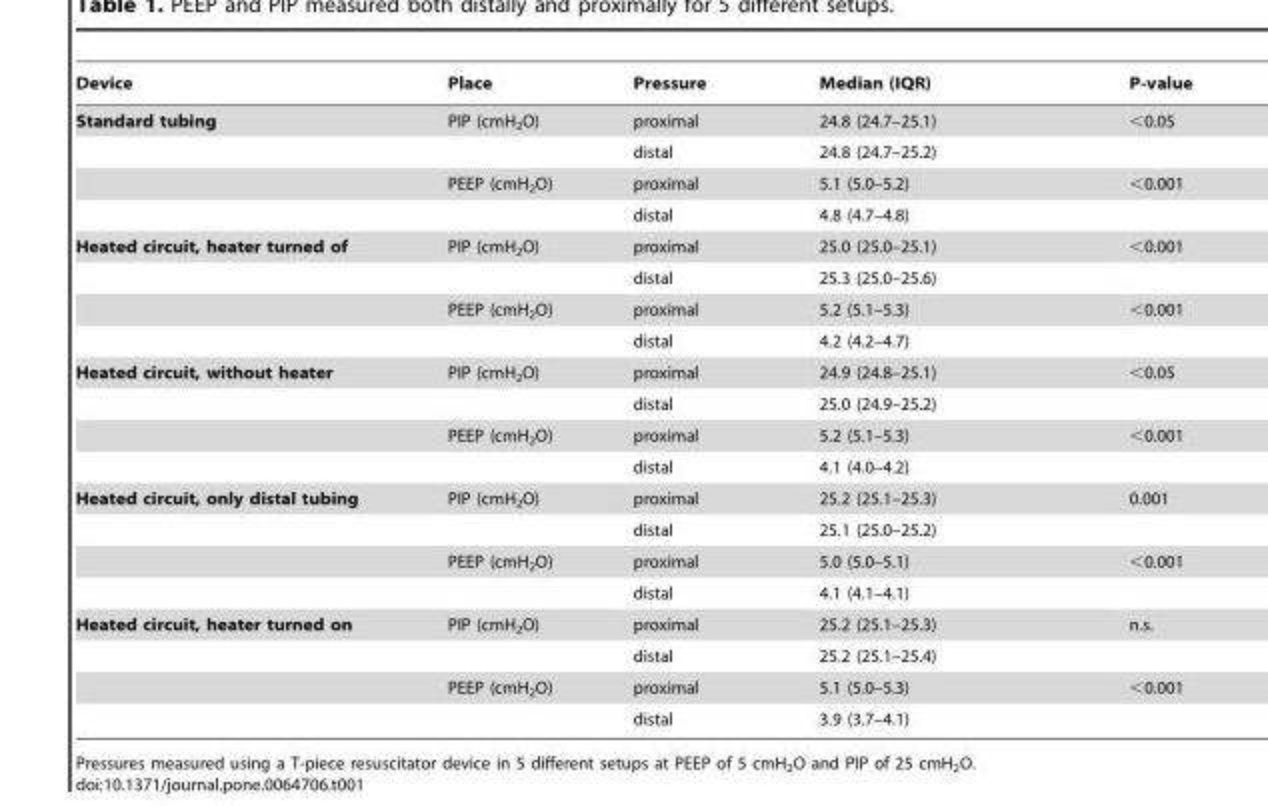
<table><thead><tr><td>Device</td><td>Place</td><td>Pressure</td><td>Median (IQR)</td><td>P-value</td></tr></thead><tbody><tr><td rowspan="4">Standard tubing</td><td>PIP (cmH<sub>2</sub>O)</td><td>proximal</td><td>24.8 (24.7–25.1)</td><td>&lt;0.05</td></tr><tr><td></td><td>distal</td><td>24.8 (24.7–25.2)</td><td></td></tr><tr><td>PEEP (cmH<sub>2</sub>O)</td><td>proximal</td><td>5.1 (5.0–5.2)</td><td>&lt;0.001</td></tr><tr><td></td><td>distal</td><td>4.8 (4.7–4.8)</td><td></td></tr><tr><td rowspan="4">Heated circuit, heater turned of</td><td>PIP (cmH<sub>2</sub>O)</td><td>proximal</td><td>25.0 (25.0–25.1)</td><td>&lt;0.001</td></tr><tr><td></td><td>distal</td><td>25.3 (25.0–25.6)</td><td></td></tr><tr><td>PEEP (cmH<sub>2</sub>O)</td><td>proximal</td><td>5.2 (5.1–5.3)</td><td>&lt;0.001</td></tr><tr><td></td><td>distal</td><td>4.2 (4.2–4.7)</td><td></td></tr><tr><td rowspan="4">Heated circuit, without heater</td><td>PIP (cmH<sub>2</sub>O)</td><td>proximal</td><td>24.9 (24.8–25.1)</td><td>&lt;0.05</td></tr><tr><td></td><td>distal</td><td>25.0 (24.9–25.2)</td><td></td></tr><tr><td>PEEP (cmH<sub>2</sub>O)</td><td>proximal</td><td>5.2 (5.1–5.3)</td><td>&lt;0.001</td></tr><tr><td></td><td>distal</td><td>4.1 (4.0–4.2)</td><td></td></tr><tr><td rowspan="4">Heated circuit, only distal tubing</td><td>PIP (cmH<sub>2</sub>O)</td><td>proximal</td><td>25.2 (25.1–25.3)</td><td>0.001</td></tr><tr><td></td><td>distal</td><td>25.1 (25.0–25.2)</td><td></td></tr><tr><td>PEEP (cmH<sub>2</sub>O)</td><td>proximal</td><td>5.0 (5.0–5.1)</td><td>&lt;0.001</td></tr><tr><td></td><td>distal</td><td>4.1 (4.1–4.1)</td><td></td></tr><tr><td rowspan="4">Heated circuit, heater turned on</td><td>PIP (cmH<sub>2</sub>O)</td><td>proximal</td><td>25.2 (25.1–25.3)</td><td>n.s.</td></tr><tr><td></td><td>distal</td><td>25.2 (25.1–25.4)</td><td></td></tr><tr><td>PEEP (cmH<sub>2</sub>O)</td><td>proximal</td><td>5.1 (5.0–5.3)</td><td>&lt;0.001</td></tr><tr><td></td><td>distal</td><td>3.9 (3.7–4.1)</td><td></td></tr></tbody></table>